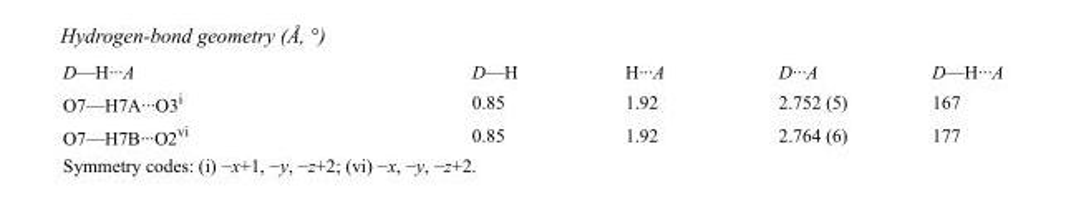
<table><tbody><tr><td>D—H···A</td><td>D—H</td><td>H···A</td><td>D···A</td><td>D—H···A</td></tr><tr><td>O7—H7A···O3<sup>i</sup></td><td>0.85</td><td>1.92</td><td>2.752 (5)</td><td>167</td></tr><tr><td>O7—H7B···O2<sup>vi</sup></td><td>0.85</td><td>1.92</td><td>2.764 (6)</td><td>177</td></tr></tbody></table>